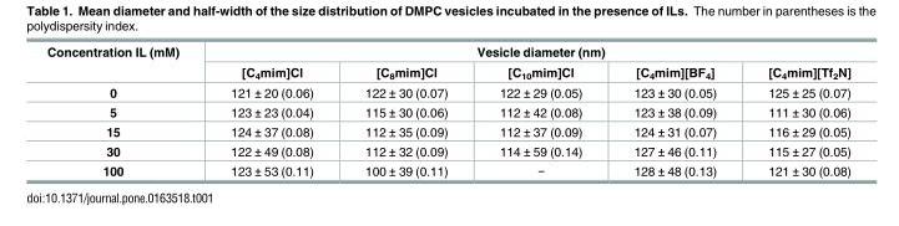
<table><thead><tr><td rowspan="2">Concentration IL (mM)</td><td colspan="5">Vesicle diameter (nm)</td></tr><tr><td>[C<sub>4</sub>mim]Cl</td><td>[C<sub>8</sub>mim]Cl</td><td>[C<sub>10</sub>mim]Cl</td><td>[C<sub>4</sub>mim][BF<sub>4</sub>]</td><td>[C<sub>4</sub>mim][Tf<sub>2</sub>N]</td></tr></thead><tbody><tr><td>0</td><td>121 ± 20 (0.06)</td><td>122 ± 30 (0.07)</td><td>122 ± 29 (0.05)</td><td>123 ± 30 (0.05)</td><td>125 ± 25 (0.07)</td></tr><tr><td>5</td><td>123 ± 23 (0.04)</td><td>115 ± 30 (0.06)</td><td>112 ± 42 (0.08)</td><td>123 ± 38 (0.09)</td><td>111 ± 30 (0.06)</td></tr><tr><td>15</td><td>124 ± 37 (0.08)</td><td>112 ± 35 (0.09)</td><td>112 ± 37 (0.09)</td><td>124 ± 31 (0.07)</td><td>116 ± 29 (0.05)</td></tr><tr><td>30</td><td>122 ± 49 (0.08)</td><td>112 ± 32 (0.09)</td><td>114 ± 59 (0.14)</td><td>127 ± 46 (0.11)</td><td>115 ± 27 (0.05)</td></tr><tr><td>100</td><td>123 ± 53 (0.11)</td><td>100 ± 39 (0.11)</td><td>−</td><td>128 ± 48 (0.13)</td><td>121 ± 30 (0.08)</td></tr></tbody></table>